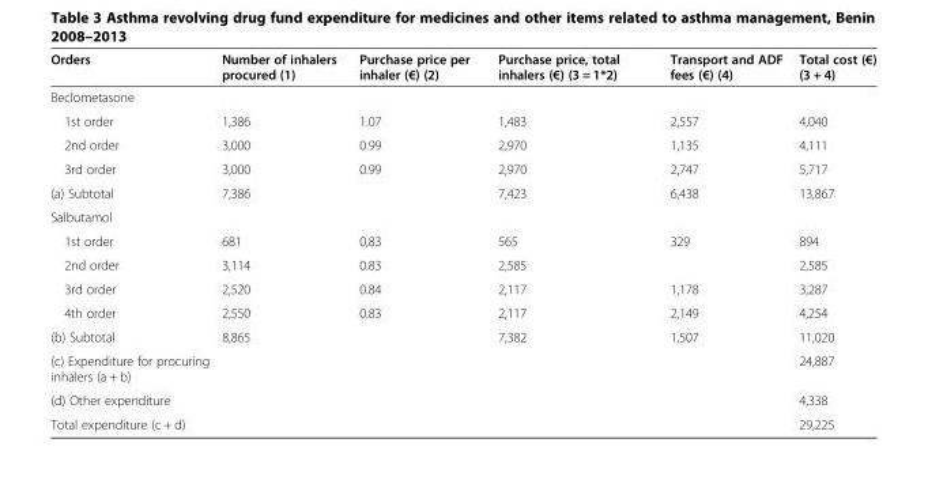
<table><thead><tr><td>Orders</td><td>Number of inhalers procured (1)</td><td>Purchase price per inhaler (€) (2)</td><td>Purchase price, total inhalers (€) (3 = 1*2)</td><td>Transport and ADF fees (€) (4)</td><td>Total cost (€) (3 + 4)</td></tr></thead><tbody><tr><td colspan="6">Beclometasone</td></tr><tr><td>1st order</td><td>1,386</td><td>1.07</td><td>1,483</td><td>2,557</td><td>4,040</td></tr><tr><td>2nd order</td><td>3,000</td><td>0.99</td><td>2,970</td><td>1,135</td><td>4,111</td></tr><tr><td>3rd order</td><td>3,000</td><td>0.99</td><td>2,970</td><td>2,747</td><td>5,717</td></tr><tr><td>(a) Subtotal</td><td>7,386</td><td></td><td>7,423</td><td>6,438</td><td>13,867</td></tr><tr><td colspan="6">Salbutamol</td></tr><tr><td>1st order</td><td>681</td><td>0,83</td><td>565</td><td>329</td><td>894</td></tr><tr><td>2nd order</td><td>3,114</td><td>0.83</td><td>2,585</td><td></td><td>2,585</td></tr><tr><td>3rd order</td><td>2,520</td><td>0.84</td><td>2,117</td><td>1,178</td><td>3,287</td></tr><tr><td>4th order</td><td>2,550</td><td>0.83</td><td>2,117</td><td>2,149</td><td>4,254</td></tr><tr><td>(b) Subtotal</td><td>8,865</td><td></td><td>7,382</td><td>1,507</td><td>11,020</td></tr><tr><td>(c) Expenditure for procuring inhalers (a + b)</td><td></td><td></td><td></td><td></td><td>24,887</td></tr><tr><td>(d) Other expenditure</td><td></td><td></td><td></td><td></td><td>4,338</td></tr><tr><td>Total expenditure (c + d)</td><td></td><td></td><td></td><td></td><td>29,225</td></tr></tbody></table>